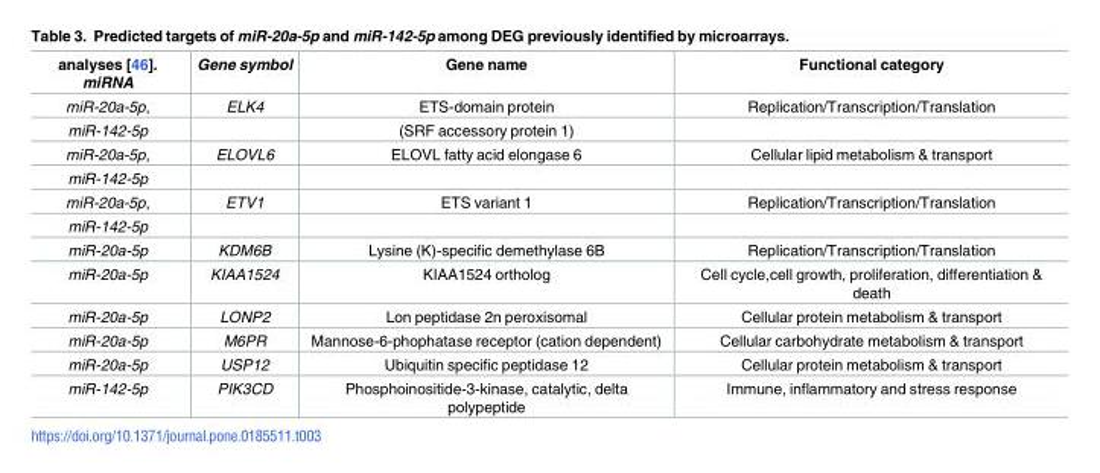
<table><thead><tr><td>analyses [46]. miRNA</td><td>Gene symbol</td><td>Gene name</td><td>Functional category</td></tr></thead><tbody><tr><td>miR-20a-5p,</td><td>ELK4</td><td>ETS-domain protein</td><td>Replication/Transcription/Translation</td></tr><tr><td>miR-142-5p</td><td></td><td>(SRF accessory protein 1)</td><td></td></tr><tr><td>miR-20a-5p,</td><td>ELOVL6</td><td>ELOVL fatty acid elongase 6</td><td>Cellular lipid metabolism &amp; transport</td></tr><tr><td colspan="4">miR-142-5p</td></tr><tr><td>miR-20a-5p,</td><td>ETV1</td><td>ETS variant 1</td><td>Replication/Transcription/Translation</td></tr><tr><td colspan="4">miR-142-5p</td></tr><tr><td>miR-20a-5p</td><td>KDM6B</td><td>Lysine (K)-specific demethylase 6B</td><td>Replication/Transcription/Translation</td></tr><tr><td>miR-20a-5p</td><td>KIAA1524</td><td>KIAA1524 ortholog</td><td>Cell cycle,cell growth, proliferation, differentiation &amp; death</td></tr><tr><td>miR-20a-5p</td><td>LONP2</td><td>Lon peptidase 2n peroxisomal</td><td>Cellular protein metabolism &amp; transport</td></tr><tr><td>miR-20a-5p</td><td>M6PR</td><td>Mannose-6-phophatase receptor (cation dependent)</td><td>Cellular carbohydrate metabolism &amp; transport</td></tr><tr><td>miR-20a-5p</td><td>USP12</td><td>Ubiquitin specific peptidase 12</td><td>Cellular protein metabolism &amp; transport</td></tr><tr><td>miR-142-5p</td><td>PIK3CD</td><td>Phosphoinositide-3-kinase, catalytic, delta polypeptide</td><td>Immune, inflammatory and stress response</td></tr></tbody></table>